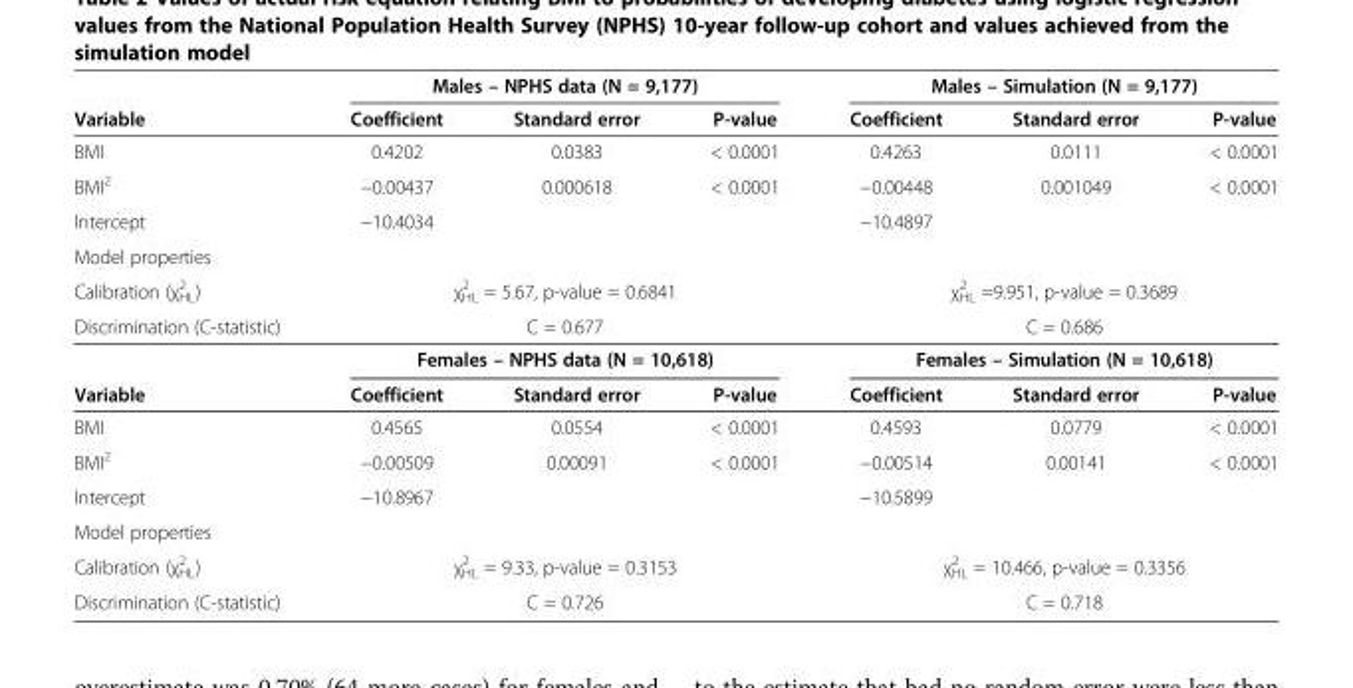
<table><thead><tr><td rowspan="2">Variable</td><td colspan="3">Males – NPHS data (N = 9,177)</td><td colspan="3">Males – Simulation (N = 9,177)</td></tr><tr><td>Coefficient</td><td>Standard error</td><td>P-value</td><td>Coefficient</td><td>Standard error</td><td>P-value</td></tr></thead><tbody><tr><td>BMI</td><td>0.4202</td><td>0.0383</td><td>&lt; 0.0001</td><td>0.4263</td><td>0.0111</td><td>&lt; 0.0001</td></tr><tr><td>BMI<sup>2</sup></td><td>−0.00437</td><td>0.000618</td><td>&lt; 0.0001</td><td>−0.00448</td><td>0.001049</td><td>&lt; 0.0001</td></tr><tr><td>Intercept</td><td>−10.4034</td><td></td><td></td><td>−10.4897</td><td></td><td></td></tr><tr><td colspan="7">Model properties</td></tr><tr><td>Calibration (χ<sup>2</sup> <sub>HL</sub>)</td><td colspan="3">χ<sup>2</sup> <sub>HL</sub> = 5.67, p-value = 0.6841</td><td colspan="3">χ<sup>2</sup> <sub>HL</sub> =9.951, p-value = 0.3689</td></tr><tr><td rowspan="2">Discrimination (C-statistic)</td><td colspan="3">C = 0.677</td><td colspan="3">C = 0.686</td></tr><tr><td colspan="3">Females – NPHS data (N = 10,618)</td><td colspan="3">Females – Simulation (N = 10,618)</td></tr><tr><td>Variable</td><td>Coefficient</td><td>Standard error</td><td>P-value</td><td>Coefficient</td><td>Standard error</td><td>P-value</td></tr><tr><td>BMI</td><td>0.4565</td><td>0.0554</td><td>&lt; 0.0001</td><td>0.4593</td><td>0.0779</td><td>&lt; 0.0001</td></tr><tr><td>BMI<sup>2</sup></td><td>−0.00509</td><td>0.00091</td><td>&lt; 0.0001</td><td>−0.00514</td><td>0.00141</td><td>&lt; 0.0001</td></tr><tr><td>Intercept</td><td>−10.8967</td><td></td><td></td><td>−10.5899</td><td></td><td></td></tr><tr><td colspan="7">Model properties</td></tr><tr><td>Calibration (χ<sup>2</sup> <sub>HL</sub>)</td><td colspan="3">χ<sup>2</sup> <sub>HL</sub> = 9.33, p-value = 0.3153</td><td colspan="3">χ<sup>2</sup> <sub>HL</sub> = 10.466, p-value = 0.3356</td></tr><tr><td>Discrimination (C-statistic)</td><td colspan="3">C = 0.726</td><td colspan="3">C = 0.718</td></tr></tbody></table>